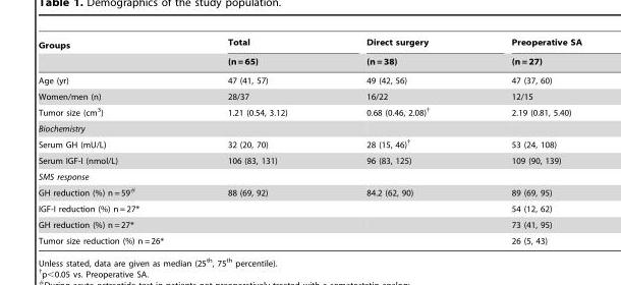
<table><thead><tr><td rowspan="2">Groups</td><td rowspan="2">Total (n = 65)</td><td rowspan="2">Direct surgery (n = 38)</td><td rowspan="2">Preoperative SA (n = 27)</td></tr><tr></tr></thead><tbody><tr><td>Age (yr)</td><td>47 (41, 57)</td><td>49 (42, 56)</td><td>47 (37, 60)</td></tr><tr><td>Women/men (n)</td><td>28/37</td><td>16/22</td><td>12/15</td></tr><tr><td>Tumor size (cm<sup>3</sup>)</td><td>1.21 (0.54, 3.12)</td><td>0.68 (0.46, 2.08)†</td><td>2.19 (0.81, 5.40)</td></tr><tr><td colspan="4">Biochemistry</td></tr><tr><td>Serum GH (mU/L)</td><td>32 (20, 70)</td><td>28 (15, 46)†</td><td>53 (24, 108)</td></tr><tr><td>Serum IGF-I (nmol/L)</td><td>106 (83, 131)</td><td>96 (83, 125)</td><td>109 (90, 139)</td></tr><tr><td colspan="4">SMS response</td></tr><tr><td>GH reduction (%) n = 59#</td><td>88 (69, 92)</td><td>84.2 (62, 90)</td><td>89 (69, 95)</td></tr><tr><td>IGF-I reduction (%) n = 27*</td><td></td><td></td><td>54 (12, 62)</td></tr><tr><td>GH reduction (%) n = 27*</td><td></td><td></td><td>73 (41, 95)</td></tr><tr><td>Tumor size reduction (%) n = 26*</td><td></td><td></td><td>26 (5, 43)</td></tr></tbody></table>